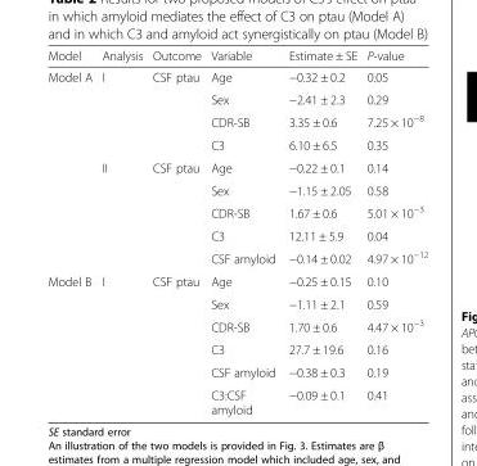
<table><thead><tr><td>Model</td><td>Analysis</td><td>Outcome</td><td>Variable</td><td>Estimate ± SE</td><td>P-value</td></tr></thead><tbody><tr><td rowspan="9">Model A</td><td rowspan="4">I</td><td rowspan="4">CSF ptau</td><td>Age</td><td>−0.32 ± 0.2</td><td>0.05</td></tr><tr><td>Sex</td><td>−2.41 ± 2.3</td><td>0.29</td></tr><tr><td>CDR-SB</td><td>3.35 ± 0.6</td><td>7.25 × 10<sup>−8</sup></td></tr><tr><td>C3</td><td>6.10 ± 6.5</td><td>0.35</td></tr><tr><td rowspan="5">II</td><td rowspan="5">CSF ptau</td><td>Age</td><td>−0.22 ± 0.1</td><td>0.14</td></tr><tr><td>Sex</td><td>−1.15 ± 2.05</td><td>0.58</td></tr><tr><td>CDR-SB</td><td>1.67 ± 0.6</td><td>5.01 × 10<sup>−3</sup></td></tr><tr><td>C3</td><td>12.11 ± 5.9</td><td>0.04</td></tr><tr><td>CSF amyloid</td><td>−0.14 ± 0.02</td><td>4.97 × 10<sup>−12</sup></td></tr><tr><td rowspan="6">Model B</td><td rowspan="6">I</td><td rowspan="6">CSF ptau</td><td>Age</td><td>−0.25 ± 0.15</td><td>0.10</td></tr><tr><td>Sex</td><td>−1.11 ± 2.1</td><td>0.59</td></tr><tr><td>CDR-SB</td><td>1.70 ± 0.6</td><td>4.47 × 10<sup>−3</sup></td></tr><tr><td>C3</td><td>27.7 ± 19.6</td><td>0.16</td></tr><tr><td>CSF amyloid</td><td>−0.38 ± 0.3</td><td>0.19</td></tr><tr><td>C3:CSF amyloid</td><td>−0.09 ± 0.1</td><td>0.41</td></tr></tbody></table>